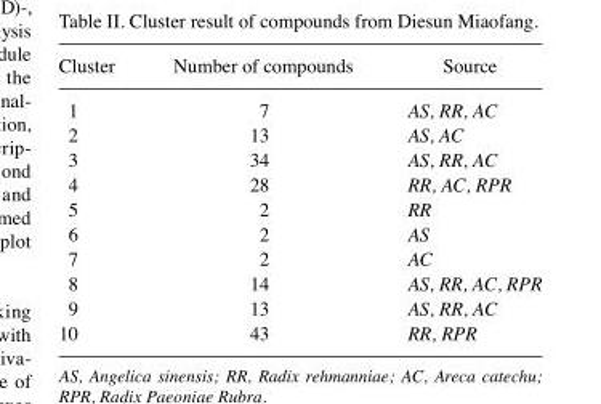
<table><thead><tr><td>Cluster</td><td>Number of compounds</td><td>Source</td></tr></thead><tbody><tr><td>1</td><td>7</td><td>AS, RR, AC</td></tr><tr><td>2</td><td>13</td><td>AS, AC</td></tr><tr><td>3</td><td>34</td><td>AS, RR, AC</td></tr><tr><td>4</td><td>28</td><td>RR, AC, RPR</td></tr><tr><td>5</td><td>2</td><td>RR</td></tr><tr><td>6</td><td>2</td><td>AS</td></tr><tr><td>7</td><td>2</td><td>AC</td></tr><tr><td>8</td><td>14</td><td>AS, RR, AC, RPR</td></tr><tr><td>9</td><td>13</td><td>AS, RR, AC</td></tr><tr><td>10</td><td>43</td><td>RR, RPR</td></tr></tbody></table>